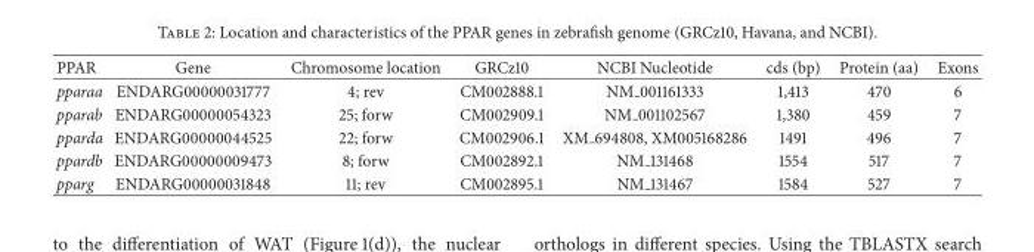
<table><thead><tr><td>PPAR</td><td>Gene</td><td>Chromosome location</td><td>GRCz10</td><td>NCBI Nucleotide</td><td>cds (bp)</td><td>Protein (aa)</td><td>Exons</td></tr></thead><tbody><tr><td>pparaa</td><td>ENDARG00000031777</td><td>4; rev</td><td>CM002888.1</td><td>NM 001161333</td><td>1,413</td><td>470</td><td>6</td></tr><tr><td>pparab</td><td>ENDARG00000054323</td><td>25; forw</td><td>CM002909.1</td><td>NM 001102567</td><td>1,380</td><td>459</td><td>7</td></tr><tr><td>pparda</td><td>ENDARG00000044525</td><td>22; forw</td><td>CM002906.1</td><td>XM 694808, XM005168286</td><td>1491</td><td>496</td><td>7</td></tr><tr><td>ppardb</td><td>ENDARG00000009473</td><td>8; forw</td><td>CM002892.1</td><td>NM 131468</td><td>1554</td><td>517</td><td>7</td></tr><tr><td>pparg</td><td>ENDARG00000031848</td><td>11; rev</td><td>CM002895.1</td><td>NM 131467</td><td>1584</td><td>527</td><td>7</td></tr></tbody></table>